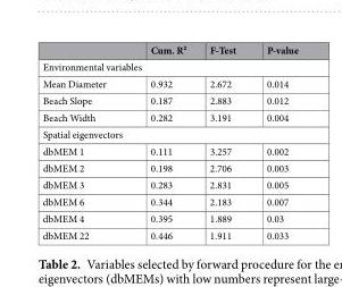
<table><thead><tr><td></td><td>Cum. R²</td><td>F-Test</td><td>P-value</td></tr></thead><tbody><tr><td colspan="4">Environmental variables</td></tr><tr><td>Mean Diameter</td><td>0.932</td><td>2.672</td><td>0.014</td></tr><tr><td>Beach Slope</td><td>0.187</td><td>2.883</td><td>0.012</td></tr><tr><td>Beach Width</td><td>0.282</td><td>3.191</td><td>0.004</td></tr><tr><td colspan="4">Spatial eigenvectors</td></tr><tr><td>dbMEM 1</td><td>0.111</td><td>3.257</td><td>0.002</td></tr><tr><td>dbMEM 2</td><td>0.198</td><td>2.706</td><td>0.003</td></tr><tr><td>dbMEM 3</td><td>0.283</td><td>2.831</td><td>0.005</td></tr><tr><td>dbMEM 6</td><td>0.344</td><td>2.183</td><td>0.007</td></tr><tr><td>dbMEM 4</td><td>0.395</td><td>1.889</td><td>0.03</td></tr><tr><td>dbMEM 22</td><td>0.446</td><td>1.911</td><td>0.033</td></tr></tbody></table>